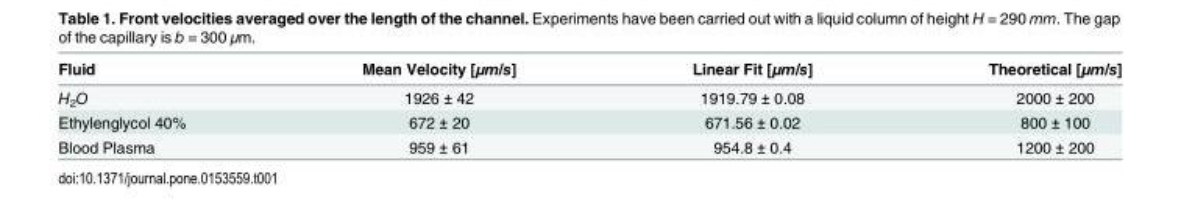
<table><thead><tr><td>Fluid</td><td>Mean Velocity [μm/s]</td><td>Linear Fit [μm/s]</td><td>Theoretical [μm/s]</td></tr></thead><tbody><tr><td>H<sub>2</sub>O</td><td>1926 ± 42</td><td>1919.79 ± 0.08</td><td>2000 ± 200</td></tr><tr><td>Ethylenglycol 40%</td><td>672 ± 20</td><td>671.56 ± 0.02</td><td>800 ± 100</td></tr><tr><td>Blood Plasma</td><td>959 ± 61</td><td>954.8 ± 0.4</td><td>1200 ± 200</td></tr></tbody></table>